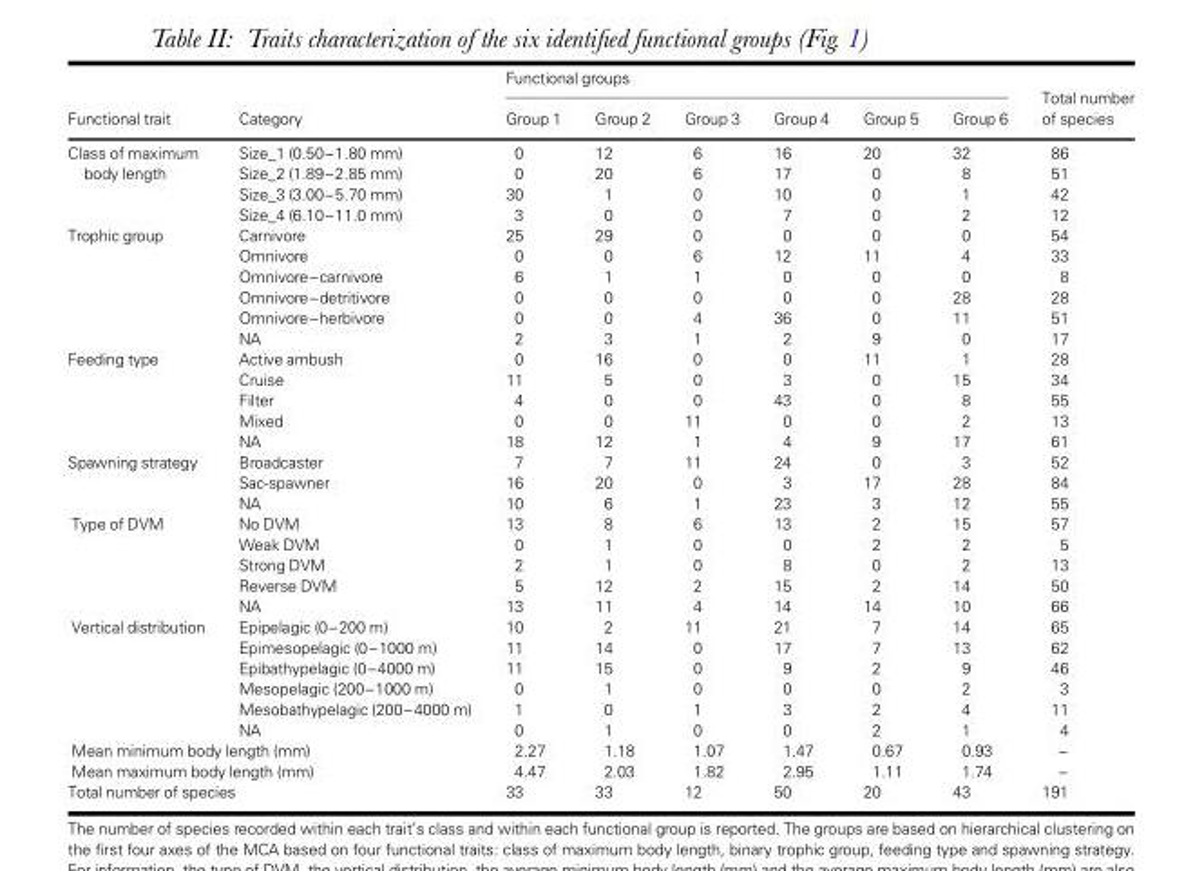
<table><thead><tr><td rowspan="2">Functional trait</td><td rowspan="2">Category</td><td colspan="6">Functional groups</td><td rowspan="2">Total number of species</td></tr><tr><td>Group 1</td><td>Group 2</td><td>Group 3</td><td>Group 4</td><td>Group 5</td><td>Group 6</td></tr></thead><tbody><tr><td rowspan="4">Class of maximum body length</td><td>Size_1 (0.50–1.80 mm)</td><td>0</td><td>12</td><td>6</td><td>16</td><td>20</td><td>32</td><td>86</td></tr><tr><td>Size_2 (1.89–2.85 mm)</td><td>0</td><td>20</td><td>6</td><td>17</td><td>0</td><td>8</td><td>51</td></tr><tr><td>Size_3 (3.00–5.70 mm)</td><td>30</td><td>1</td><td>0</td><td>10</td><td>0</td><td>1</td><td>42</td></tr><tr><td>Size_4 (6.10–11.0 mm)</td><td>3</td><td>0</td><td>0</td><td>7</td><td>0</td><td>2</td><td>12</td></tr><tr><td rowspan="6">Trophic group</td><td>Carnivore</td><td>25</td><td>29</td><td>0</td><td>0</td><td>0</td><td>0</td><td>54</td></tr><tr><td>Omnivore</td><td>0</td><td>0</td><td>6</td><td>12</td><td>11</td><td>4</td><td>33</td></tr><tr><td>Omnivore–carnivore</td><td>6</td><td>1</td><td>1</td><td>0</td><td>0</td><td>0</td><td>8</td></tr><tr><td>Omnivore–detritivore</td><td>0</td><td>0</td><td>0</td><td>0</td><td>0</td><td>28</td><td>28</td></tr><tr><td>Omnivore–herbivore</td><td>0</td><td>0</td><td>4</td><td>36</td><td>0</td><td>11</td><td>51</td></tr><tr><td>NA</td><td>2</td><td>3</td><td>1</td><td>2</td><td>9</td><td>0</td><td>17</td></tr><tr><td rowspan="5">Feeding type</td><td>Active ambush</td><td>0</td><td>16</td><td>0</td><td>0</td><td>11</td><td>1</td><td>28</td></tr><tr><td>Cruise</td><td>11</td><td>5</td><td>0</td><td>3</td><td>0</td><td>15</td><td>34</td></tr><tr><td>Filter</td><td>4</td><td>0</td><td>0</td><td>43</td><td>0</td><td>8</td><td>55</td></tr><tr><td>Mixed</td><td>0</td><td>0</td><td>11</td><td>0</td><td>0</td><td>2</td><td>13</td></tr><tr><td>NA</td><td>18</td><td>12</td><td>1</td><td>4</td><td>9</td><td>17</td><td>61</td></tr><tr><td rowspan="3">Spawning strategy</td><td>Broadcaster</td><td>7</td><td>7</td><td>11</td><td>24</td><td>0</td><td>3</td><td>52</td></tr><tr><td>Sac-spawner</td><td>16</td><td>20</td><td>0</td><td>3</td><td>17</td><td>28</td><td>84</td></tr><tr><td>NA</td><td>10</td><td>6</td><td>1</td><td>23</td><td>3</td><td>12</td><td>55</td></tr><tr><td rowspan="5">Type of DVM</td><td>No DVM</td><td>13</td><td>8</td><td>6</td><td>13</td><td>2</td><td>15</td><td>57</td></tr><tr><td>Weak DVM</td><td>0</td><td>1</td><td>0</td><td>0</td><td>2</td><td>2</td><td>5</td></tr><tr><td>Strong DVM</td><td>2</td><td>1</td><td>0</td><td>8</td><td>0</td><td>2</td><td>13</td></tr><tr><td>Reverse DVM</td><td>5</td><td>12</td><td>2</td><td>15</td><td>2</td><td>14</td><td>50</td></tr><tr><td>NA</td><td>13</td><td>11</td><td>4</td><td>14</td><td>14</td><td>10</td><td>66</td></tr><tr><td rowspan="6">Vertical distribution</td><td>Epipelagic (0–200 m)</td><td>10</td><td>2</td><td>11</td><td>21</td><td>7</td><td>14</td><td>65</td></tr><tr><td>Epimesopelagic (0–1000 m)</td><td>11</td><td>14</td><td>0</td><td>17</td><td>7</td><td>13</td><td>62</td></tr><tr><td>Epibathypelagic (0–4000 m)</td><td>11</td><td>15</td><td>0</td><td>9</td><td>2</td><td>9</td><td>46</td></tr><tr><td>Mesopelagic (200–1000 m)</td><td>0</td><td>1</td><td>0</td><td>0</td><td>0</td><td>2</td><td>3</td></tr><tr><td>Mesobathypelagic (200–4000 m)</td><td>1</td><td>0</td><td>1</td><td>3</td><td>2</td><td>4</td><td>11</td></tr><tr><td>NA</td><td>0</td><td>1</td><td>0</td><td>0</td><td>2</td><td>1</td><td>4</td></tr><tr><td colspan="2">Mean minimum body length (mm)</td><td>2.27</td><td>1.18</td><td>1.07</td><td>1.47</td><td>0.67</td><td>0.93</td><td>–</td></tr><tr><td colspan="2">Mean maximum body length (mm)</td><td>4.47</td><td>2.03</td><td>1.82</td><td>2.95</td><td>1.11</td><td>1.74</td><td>–</td></tr><tr><td colspan="2">Total number of species</td><td>33</td><td>33</td><td>12</td><td>50</td><td>20</td><td>43</td><td>191</td></tr></tbody></table>